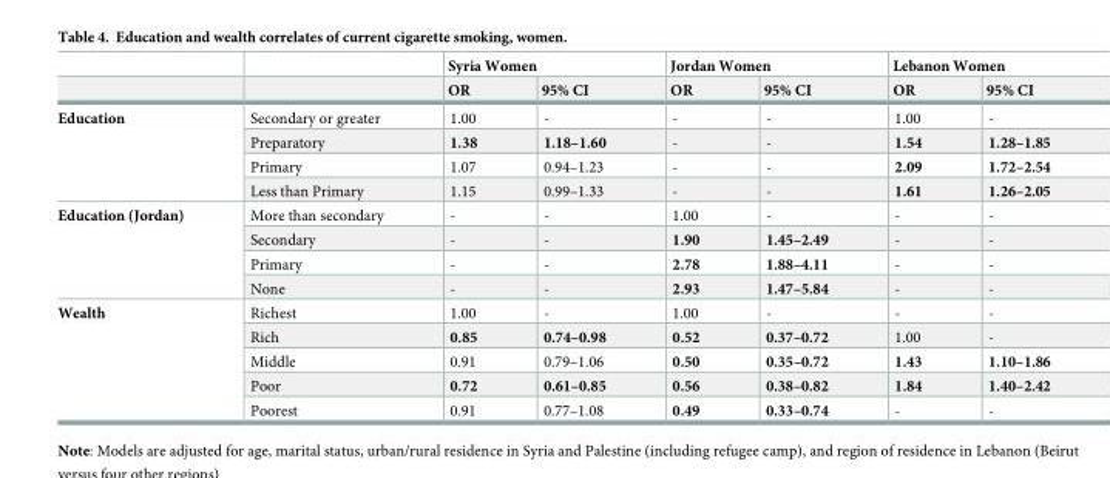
<table><thead><tr><td rowspan="2"></td><td rowspan="2"></td><td colspan="2">Syria Women</td><td colspan="2">Jordan Women</td><td colspan="2">Lebanon Women</td></tr><tr><td>OR</td><td>95% CI</td><td>OR</td><td>95% CI</td><td>OR</td><td>95% CI</td></tr></thead><tbody><tr><td rowspan="4">Education</td><td>Secondary or greater</td><td>1.00</td><td>-</td><td>-</td><td>-</td><td>1.00</td><td>-</td></tr><tr><td>Preparatory</td><td>1.38</td><td>1.18–1.60</td><td>-</td><td>-</td><td>1.54</td><td>1.28–1.85</td></tr><tr><td>Primary</td><td>1.07</td><td>0.94–1.23</td><td>-</td><td>-</td><td>2.09</td><td>1.72–2.54</td></tr><tr><td>Less than Primary</td><td>1.15</td><td>0.99–1.33</td><td>-</td><td>-</td><td>1.61</td><td>1.26–2.05</td></tr><tr><td rowspan="4">Education (Jordan)</td><td>More than secondary</td><td>-</td><td>-</td><td>1.00</td><td>-</td><td>-</td><td>-</td></tr><tr><td>Secondary</td><td>-</td><td>-</td><td>1.90</td><td>1.45–2.49</td><td>-</td><td>-</td></tr><tr><td>Primary</td><td>-</td><td>-</td><td>2.78</td><td>1.88–4.11</td><td>-</td><td>-</td></tr><tr><td>None</td><td>-</td><td>-</td><td>2.93</td><td>1.47–5.84</td><td>-</td><td>-</td></tr><tr><td rowspan="5">Wealth</td><td>Richest</td><td>1.00</td><td>-</td><td>1.00</td><td>-</td><td>-</td><td>-</td></tr><tr><td>Rich</td><td>0.85</td><td>0.74–0.98</td><td>0.52</td><td>0.37–0.72</td><td>1.00</td><td>-</td></tr><tr><td>Middle</td><td>0.91</td><td>0.79–1.06</td><td>0.50</td><td>0.35–0.72</td><td>1.43</td><td>1.10–1.86</td></tr><tr><td>Poor</td><td>0.72</td><td>0.61–0.85</td><td>0.56</td><td>0.38–0.82</td><td>1.84</td><td>1.40–2.42</td></tr><tr><td>Poorest</td><td>0.91</td><td>0.77–1.08</td><td>0.49</td><td>0.33–0.74</td><td>-</td><td>-</td></tr></tbody></table>